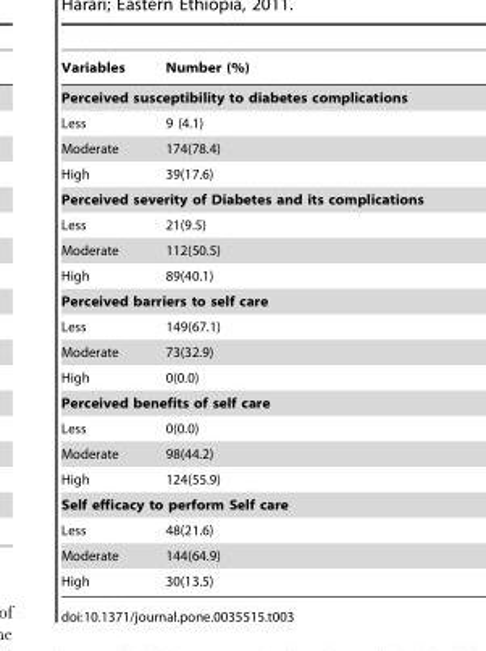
<table><thead><tr><td>Variables</td><td>Number (%)</td></tr></thead><tbody><tr><td colspan="2">Perceived susceptibility to diabetes complications</td></tr><tr><td>Less</td><td>9 (4.1)</td></tr><tr><td>Moderate</td><td>174(78.4)</td></tr><tr><td>High</td><td>39(17.6)</td></tr><tr><td colspan="2">Perceived severity of Diabetes and its complications</td></tr><tr><td>Less</td><td>21(9.5)</td></tr><tr><td>Moderate</td><td>112(50.5)</td></tr><tr><td>High</td><td>89(40.1)</td></tr><tr><td colspan="2">Perceived barriers to self care</td></tr><tr><td>Less</td><td>149(67.1)</td></tr><tr><td>Moderate</td><td>73(32.9)</td></tr><tr><td>High</td><td>0(0.0)</td></tr><tr><td colspan="2">Perceived benefits of self care</td></tr><tr><td>Less</td><td>0(0.0)</td></tr><tr><td>Moderate</td><td>98(44.2)</td></tr><tr><td>High</td><td>124(55.9)</td></tr><tr><td colspan="2">Self efficacy to perform Self care</td></tr><tr><td>Less</td><td>48(21.6)</td></tr><tr><td>Moderate</td><td>144(64.9)</td></tr><tr><td>High</td><td>30(13.5)</td></tr></tbody></table>